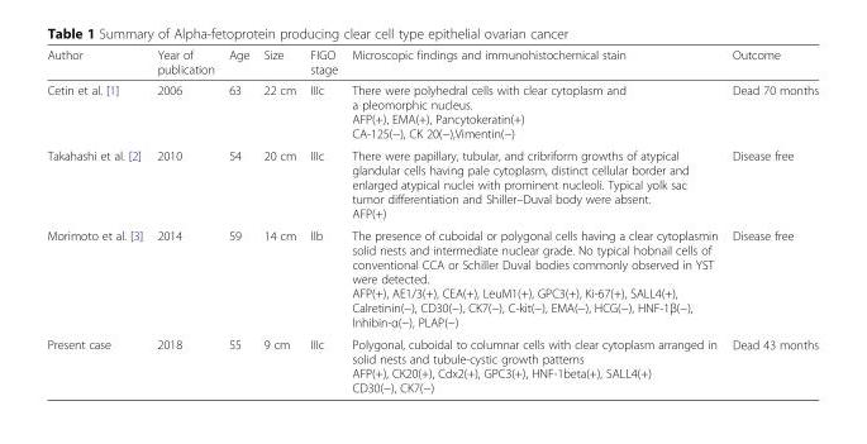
<table><thead><tr><td>Author</td><td>Year of publication</td><td>Age</td><td>Size</td><td>FIGO stage</td><td>Microscopic findings and immunohistochemical stain</td><td>Outcome</td></tr></thead><tbody><tr><td>Cetin et al. [1]</td><td>2006</td><td>63</td><td>22 cm</td><td>IIIc</td><td>There were polyhedral cells with clear cytoplasm and a pleomorphic nucleus. AFP(+), EMA(+), Pancytokeratin(+) CA-125(−), CK 20(−),Vimentin(−)</td><td>Dead 70 months</td></tr><tr><td>Takahashi et al. [2]</td><td>2010</td><td>54</td><td>20 cm</td><td>IIIc</td><td>There were papillary, tubular, and cribriform growths of atypical glandular cells having pale cytoplasm, distinct cellular border and enlarged atypical nuclei with prominent nucleoli. Typical yolk sac tumor differentiation and Shiller–Duval body were absent. AFP(+)</td><td>Disease free</td></tr><tr><td>Morimoto et al. [3]</td><td>2014</td><td>59</td><td>14 cm</td><td>IIb</td><td>The presence of cuboidal or polygonal cells having a clear cytoplasmin solid nests and intermediate nuclear grade. No typical hobnail cells of conventional CCA or Schiller Duval bodies commonly observed in YST were detected. AFP(+), AE1/3(+), CEA(+), LeuM1(+), GPC3(+), Ki-67(+), SALL4(+), Calretinin(−), CD30(−), CK7(−), C-kit(−), EMA(−), HCG(−), HNF-1β(−), Inhibin-α(−), PLAP(−)</td><td>Disease free</td></tr><tr><td>Present case</td><td>2018</td><td>55</td><td>9 cm</td><td>IIIc</td><td>Polygonal, cuboidal to columnar cells with clear cytoplasm arranged in solid nests and tubule-cystic growth patterns AFP(+), CK20(+), Cdx2(+), GPC3(+), HNF-1beta(+), SALL4(+) CD30(−), CK7(−)</td><td>Dead 43 months</td></tr></tbody></table>